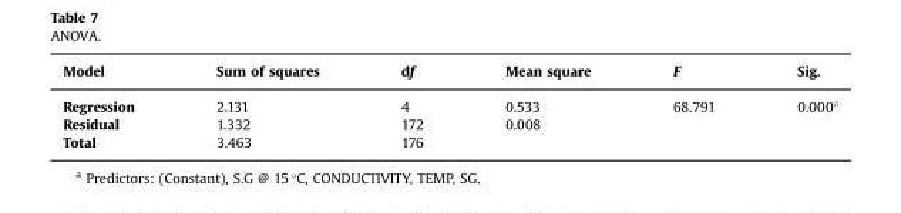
<table><thead><tr><td>Model</td><td>Sum of squares</td><td>df</td><td>Mean square</td><td>F</td><td>Sig.</td></tr></thead><tbody><tr><td>Regression</td><td>2.131</td><td>4</td><td>0.533</td><td>68.791</td><td>0.000<sup>a</sup></td></tr><tr><td>Residual</td><td>1.332</td><td>172</td><td>0.008</td><td></td><td></td></tr><tr><td>Total</td><td>3.463</td><td>176</td><td></td><td></td><td></td></tr></tbody></table>